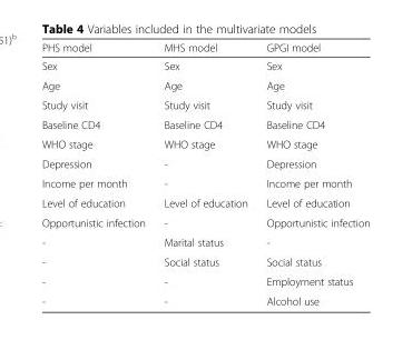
<table><thead><tr><td>PHS model</td><td>MHS model</td><td>GPGI model</td></tr></thead><tbody><tr><td>Sex</td><td>Sex</td><td>Sex</td></tr><tr><td>Age</td><td>Age</td><td>Age</td></tr><tr><td>Study visit</td><td>Study visit</td><td>Study visit</td></tr><tr><td>Baseline CD4</td><td>Baseline CD4</td><td>Baseline CD4</td></tr><tr><td>WHO stage</td><td>WHO stage</td><td>WHO stage</td></tr><tr><td>Depression</td><td>-</td><td>Depression</td></tr><tr><td>Income per month</td><td>-</td><td>Income per month</td></tr><tr><td>Level of education</td><td>Level of education</td><td>Level of education</td></tr><tr><td>Opportunistic infection</td><td>-</td><td>Opportunistic infection</td></tr><tr><td>-</td><td>Marital status</td><td>-</td></tr><tr><td>-</td><td>Social status</td><td>Social status</td></tr><tr><td>-</td><td>-</td><td>Employment status</td></tr><tr><td>-</td><td>-</td><td>Alcohol use</td></tr></tbody></table>